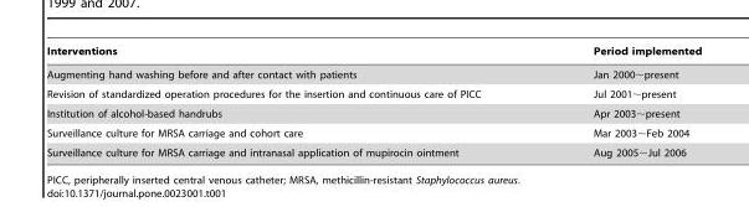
<table><thead><tr><td>Interventions</td><td>Period implemented</td></tr></thead><tbody><tr><td>Augmenting hand washing before and after contact with patients</td><td>Jan 2000∼present</td></tr><tr><td>Revision of standardized operation procedures for the insertion and continuous care of PICC</td><td>Jul 2001∼present</td></tr><tr><td>Institution of alcohol-based handrubs</td><td>Apr 2003∼present</td></tr><tr><td>Surveillance culture for MRSA carriage and cohort care</td><td>Mar 2003∼Feb 2004</td></tr><tr><td>Surveillance culture for MRSA carriage and intranasal application of mupirocin ointment</td><td>Aug 2005∼Jul 2006</td></tr></tbody></table>